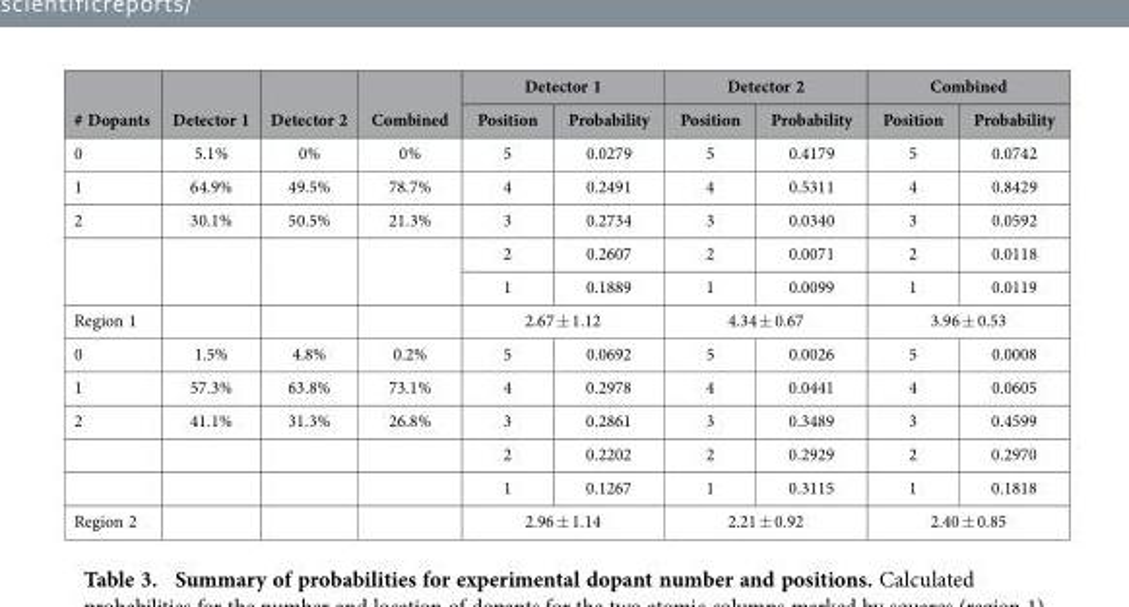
<table><thead><tr><td rowspan="2"># Dopants</td><td rowspan="2">Detector 1</td><td rowspan="2">Detector 2</td><td rowspan="2">Combined</td><td colspan="2">Detector 1</td><td colspan="2">Detector 2</td><td colspan="2">Combined</td></tr><tr><td>Position</td><td>Probability</td><td>Position</td><td>Probability</td><td>Position</td><td>Probability</td></tr></thead><tbody><tr><td>0</td><td>5.1%</td><td>0%</td><td>0%</td><td>5</td><td>0.0279</td><td>5</td><td>0.4179</td><td>5</td><td>0.0742</td></tr><tr><td>1</td><td>64.9%</td><td>49.5%</td><td>78.7%</td><td>4</td><td>0.2491</td><td>4</td><td>0.5311</td><td>4</td><td>0.8429</td></tr><tr><td rowspan="3">2</td><td>30.1%</td><td>50.5%</td><td>21.3%</td><td>3</td><td>0.2734</td><td>3</td><td>0.0340</td><td>3</td><td>0.0592</td></tr><tr><td rowspan="2"></td><td rowspan="2"></td><td rowspan="2"></td><td>2</td><td>0.2607</td><td>2</td><td>0.0071</td><td>2</td><td>0.0118</td></tr><tr><td>1</td><td>0.1889</td><td>1</td><td>0.0099</td><td>1</td><td>0.0119</td></tr><tr><td>Region 1</td><td></td><td></td><td></td><td colspan="2">2.67 ± 1.12</td><td colspan="2">4.34 ± 0.67</td><td colspan="2">3.96 ± 0.53</td></tr><tr><td>0</td><td>1.5%</td><td>4.8%</td><td>0.2%</td><td>5</td><td>0.0692</td><td>5</td><td>0.0026</td><td>5</td><td>0.0008</td></tr><tr><td>1</td><td>57.3%</td><td>63.8%</td><td>73.1%</td><td>4</td><td>0.2978</td><td>4</td><td>0.0441</td><td>4</td><td>0.0605</td></tr><tr><td rowspan="3">2</td><td>41.1%</td><td>31.3%</td><td>26.8%</td><td>3</td><td>0.2861</td><td>3</td><td>0.3489</td><td>3</td><td>0.4599</td></tr><tr><td></td><td></td><td></td><td>2</td><td>0.2202</td><td>2</td><td>0.2929</td><td>2</td><td>0.2970</td></tr><tr><td></td><td></td><td></td><td>1</td><td>0.1267</td><td>1</td><td>0.3115</td><td>1</td><td>0.1818</td></tr><tr><td>Region 2</td><td></td><td></td><td></td><td colspan="2">2.96 ± 1.14</td><td colspan="2">2.21 ± 0.92</td><td colspan="2">2.40 ± 0.85</td></tr></tbody></table>